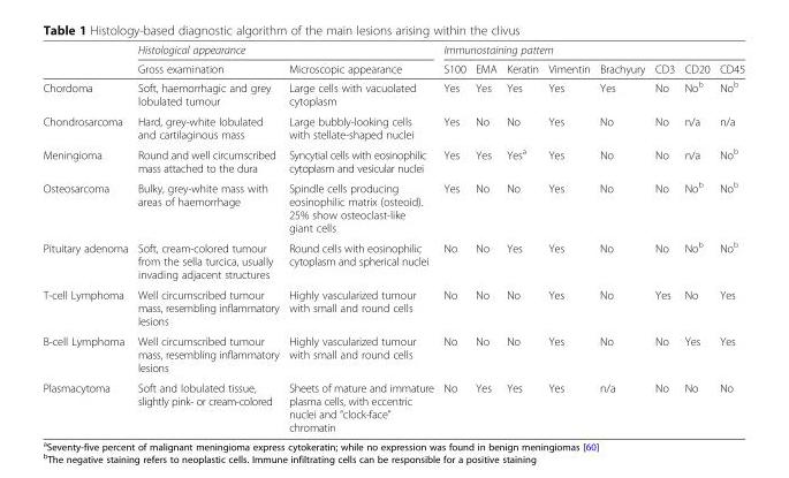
<table><thead><tr><td rowspan="2"></td><td colspan="2">Histological appearance</td><td colspan="8">Immunostaining pattern</td></tr><tr><td>Gross examination</td><td>Microscopic appearance</td><td>S100</td><td>EMA</td><td>Keratin</td><td>Vimentin</td><td>Brachyury</td><td>CD3</td><td>CD20</td><td>CD45</td></tr></thead><tbody><tr><td>Chordoma</td><td>Soft, haemorrhagic and grey lobulated tumour</td><td>Large cells with vacuolated cytoplasm</td><td>Yes</td><td>Yes</td><td>Yes</td><td>Yes</td><td>Yes</td><td>No</td><td>No<sup>b</sup></td><td>No<sup>b</sup></td></tr><tr><td>Chondrosarcoma</td><td>Hard, grey-white lobulated and cartilaginous mass</td><td>Large bubbly-looking cells with stellate-shaped nuclei</td><td>Yes</td><td>No</td><td>No</td><td>Yes</td><td>No</td><td>No</td><td>n/a</td><td>n/a</td></tr><tr><td>Meningioma</td><td>Round and well circumscribed mass attached to the dura</td><td>Syncytial cells with eosinophilic cytoplasm and vesicular nuclei</td><td>Yes</td><td>Yes</td><td>Yes<sup>a</sup></td><td>Yes</td><td>No</td><td>No</td><td>n/a</td><td>No<sup>b</sup></td></tr><tr><td>Osteosarcoma</td><td>Bulky, grey-white mass with areas of haemorrhage</td><td>Spindle cells producing eosinophilic matrix (osteoid). 25% show osteoclast-like giant cells</td><td>Yes</td><td>No</td><td>No</td><td>Yes</td><td>No</td><td>No</td><td>No<sup>b</sup></td><td>No<sup>b</sup></td></tr><tr><td>Pituitary adenoma</td><td>Soft, cream-colored tumour from the sella turcica, usually invading adjacent structures</td><td>Round cells with eosinophilic cytoplasm and spherical nuclei</td><td>No</td><td>No</td><td>Yes</td><td>Yes</td><td>No</td><td>No</td><td>No<sup>b</sup></td><td>No<sup>b</sup></td></tr><tr><td>T-cell Lymphoma</td><td>Well circumscribed tumour mass, resembling inflammatory lesions</td><td>Highly vascularized tumour with small and round cells</td><td>No</td><td>No</td><td>No</td><td>Yes</td><td>No</td><td>Yes</td><td>No</td><td>Yes</td></tr><tr><td>B-cell Lymphoma</td><td>Well circumscribed tumour mass, resembling inflammatory lesions</td><td>Highly vascularized tumour with small and round cells</td><td>No</td><td>No</td><td>No</td><td>Yes</td><td>No</td><td>No</td><td>Yes</td><td>Yes</td></tr><tr><td>Plasmacytoma</td><td>Soft and lobulated tissue, slightly pink- or cream-colored</td><td>Sheets of mature and immature plasma cells, with eccentric nuclei and “clock-face” chromatin</td><td>No</td><td>Yes</td><td>Yes</td><td>Yes</td><td>n/a</td><td>No</td><td>No</td><td>No</td></tr></tbody></table>